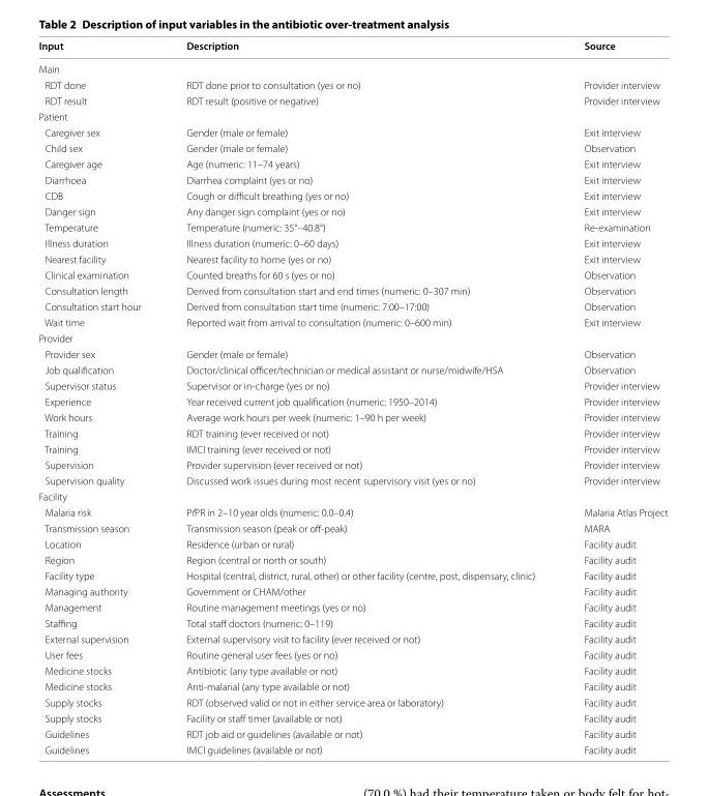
<table><thead><tr><td>Input</td><td>Description</td><td>Source</td></tr></thead><tbody><tr><td colspan="3">Main</td></tr><tr><td>RDT done</td><td>RDT done prior to consultation (yes or no)</td><td>Provider interview</td></tr><tr><td>RDT result</td><td>RDT result (positive or negative)</td><td>Provider interview</td></tr><tr><td colspan="3">Patient</td></tr><tr><td>Caregiver sex</td><td>Gender (male or female)</td><td>Exit interview</td></tr><tr><td>Child sex</td><td>Gender (male or female)</td><td>Observation</td></tr><tr><td>Caregiver age</td><td>Age (numeric: 11–74 years)</td><td>Exit interview</td></tr><tr><td>Diarrhoea</td><td>Diarrhea complaint (yes or no)</td><td>Exit interview</td></tr><tr><td>CDB</td><td>Cough or difficult breathing (yes or no)</td><td>Exit interview</td></tr><tr><td>Danger sign</td><td>Any danger sign complaint (yes or no)</td><td>Exit interview</td></tr><tr><td>Temperature</td><td>Temperature (numeric: 35°–40.8°)</td><td>Re-examination</td></tr><tr><td>Illness duration</td><td>Illness duration (numeric: 0–60 days)</td><td>Exit interview</td></tr><tr><td>Nearest facility</td><td>Nearest facility to home (yes or no)</td><td>Exit interview</td></tr><tr><td>Clinical examination</td><td>Counted breaths for 60 s (yes or no)</td><td>Observation</td></tr><tr><td>Consultation length</td><td>Derived from consultation start and end times (numeric: 0–307 min)</td><td>Observation</td></tr><tr><td>Consultation start hour</td><td>Derived from consultation start time (numeric: 7:00–17:00)</td><td>Observation</td></tr><tr><td>Wait time</td><td>Reported wait from arrival to consultation (numeric: 0–600 min)</td><td>Exit interview</td></tr><tr><td colspan="3">Provider</td></tr><tr><td>Provider sex</td><td>Gender (male or female)</td><td>Observation</td></tr><tr><td>Job qualification</td><td>Doctor/clinical officer/technician or medical assistant or nurse/midwife/HSA</td><td>Observation</td></tr><tr><td>Supervisor status</td><td>Supervisor or in-charge (yes or no)</td><td>Provider interview</td></tr><tr><td>Experience</td><td>Year received current job qualification (numeric: 1950–2014)</td><td>Provider interview</td></tr><tr><td>Work hours</td><td>Average work hours per week (numeric: 1–90 h per week)</td><td>Provider interview</td></tr><tr><td>Training</td><td>RDT training (ever received or not)</td><td>Provider interview</td></tr><tr><td>Training</td><td>IMCI training (ever received or not)</td><td>Provider interview</td></tr><tr><td>Supervision</td><td>Provider supervision (ever received or not)</td><td>Provider interview</td></tr><tr><td>Supervision quality</td><td>Discussed work issues during most recent supervisory visit (yes or no)</td><td>Provider interview</td></tr><tr><td colspan="3">Facility</td></tr><tr><td>Malaria risk</td><td>PfPR in 2–10 year olds (numeric: 0.0–0.4)</td><td>Malaria Atlas Project</td></tr><tr><td>Transmission season</td><td>Transmission season (peak or off-peak)</td><td>MARA</td></tr><tr><td>Location</td><td>Residence (urban or rural)</td><td>Facility audit</td></tr><tr><td>Region</td><td>Region (central or north or south)</td><td>Facility audit</td></tr><tr><td>Facility type</td><td>Hospital (central, district, rural, other) or other facility (centre, post, dispensary, clinic)</td><td>Facility audit</td></tr><tr><td>Managing authority</td><td>Government or CHAM/other</td><td>Facility audit</td></tr><tr><td>Management</td><td>Routine management meetings (yes or no)</td><td>Facility audit</td></tr><tr><td>Staffing</td><td>Total staff doctors (numeric: 0–119)</td><td>Facility audit</td></tr><tr><td>External supervision</td><td>External supervisory visit to facility (ever received or not)</td><td>Facility audit</td></tr><tr><td>User fees</td><td>Routine general user fees (yes or no)</td><td>Facility audit</td></tr><tr><td>Medicine stocks</td><td>Antibiotic (any type available or not)</td><td>Facility audit</td></tr><tr><td>Medicine stocks</td><td>Anti-malarial (any type available or not)</td><td>Facility audit</td></tr><tr><td>Supply stocks</td><td>RDT (observed valid or not in either service area or laboratory)</td><td>Facility audit</td></tr><tr><td>Supply stocks</td><td>Facility or staff timer (available or not)</td><td>Facility audit</td></tr><tr><td>Guidelines</td><td>RDT job aid or guidelines (available or not)</td><td>Facility audit</td></tr><tr><td>Guidelines</td><td>IMCI guidelines (available or not)</td><td>Facility audit</td></tr></tbody></table>